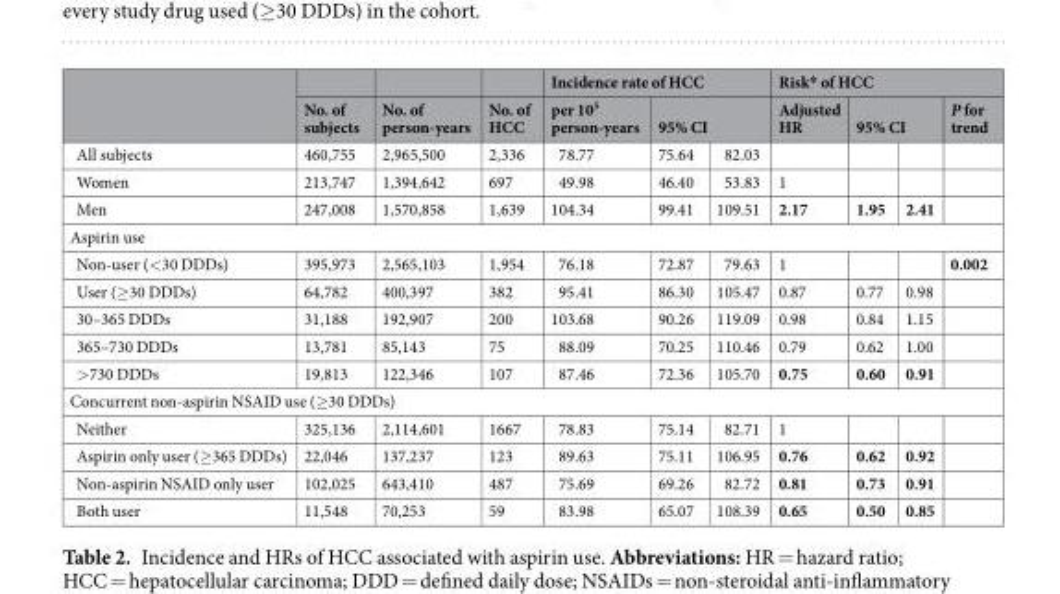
<table><thead><tr><td rowspan="3">All subjects</td><td rowspan="3">No. of subjects 460,755</td><td rowspan="3">No. of person-years 2,965,500</td><td rowspan="3">No. of HCC 2,336</td><td colspan="3">Incidence rate of HCC</td><td colspan="4">Risk* of HCC</td></tr><tr><td rowspan="2">per 10<sup>5</sup> person-years 78.77</td><td colspan="2">95% CI</td><td rowspan="2">Adjusted HR</td><td colspan="2">95% CI</td><td rowspan="2">P for trend</td></tr><tr><td>75.64</td><td>82.03</td><td></td><td></td></tr></thead><tbody><tr><td>Women</td><td>213,747</td><td>1,394,642</td><td>697</td><td>49.98</td><td>46.40</td><td>53.83</td><td>1</td><td></td><td></td><td></td></tr><tr><td>Men</td><td>247,008</td><td>1,570,858</td><td>1,639</td><td>104.34</td><td>99.41</td><td>109.51</td><td>2.17</td><td>1.95</td><td>2.41</td><td></td></tr><tr><td colspan="11">Aspirin use</td></tr><tr><td>Non-user (&lt;30 DDDs)</td><td>395,973</td><td>2,565,103</td><td>1,954</td><td>76.18</td><td>72.87</td><td>79.63</td><td>1</td><td></td><td></td><td>0.002</td></tr><tr><td>User (≥30 DDDs)</td><td>64,782</td><td>400,397</td><td>382</td><td>95.41</td><td>86.30</td><td>105.47</td><td>0.87</td><td>0.77</td><td>0.98</td><td></td></tr><tr><td>30–365 DDDs</td><td>31,188</td><td>192,907</td><td>200</td><td>103.68</td><td>90.26</td><td>119.09</td><td>0.98</td><td>0.84</td><td>1.15</td><td></td></tr><tr><td>365–730 DDDs</td><td>13,781</td><td>85,143</td><td>75</td><td>88.09</td><td>70.25</td><td>110.46</td><td>0.79</td><td>0.62</td><td>1.00</td><td></td></tr><tr><td>&gt;730 DDDs</td><td>19,813</td><td>122,346</td><td>107</td><td>87.46</td><td>72.36</td><td>105.70</td><td>0.75</td><td>0.60</td><td>0.91</td><td></td></tr><tr><td colspan="11">Concurrent non-aspirin NSAID use (≥30 DDDs)</td></tr><tr><td>Neither</td><td>325,136</td><td>2,114,601</td><td>1667</td><td>78.83</td><td>75.14</td><td>82.71</td><td>1</td><td></td><td></td><td></td></tr><tr><td>Aspirin only user (≥365 DDDs)</td><td>22,046</td><td>137,237</td><td>123</td><td>89.63</td><td>75.11</td><td>106.95</td><td>0.76</td><td>0.62</td><td>0.92</td><td></td></tr><tr><td>Non-aspirin NSAID only user</td><td>102,025</td><td>643,410</td><td>487</td><td>75.69</td><td>69.26</td><td>82.72</td><td>0.81</td><td>0.73</td><td>0.91</td><td></td></tr><tr><td>Both user</td><td>11,548</td><td>70,253</td><td>59</td><td>83.98</td><td>65.07</td><td>108.39</td><td>0.65</td><td>0.50</td><td>0.85</td><td></td></tr></tbody></table>